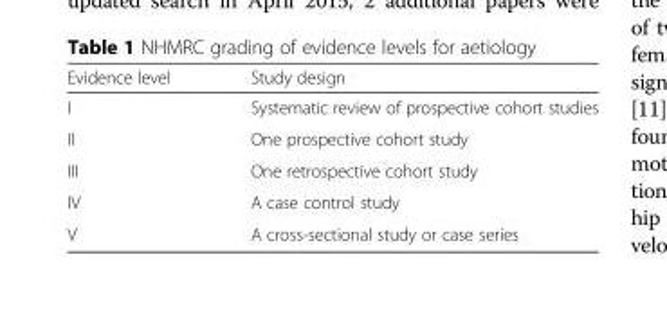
<table><thead><tr><td>Evidence level</td><td>Study design</td></tr></thead><tbody><tr><td>I</td><td>Systematic review of prospective cohort studies</td></tr><tr><td>II</td><td>One prospective cohort study</td></tr><tr><td>III</td><td>One retrospective cohort study</td></tr><tr><td>IV</td><td>A case control study</td></tr><tr><td>V</td><td>A cross-sectional study or case series</td></tr></tbody></table>